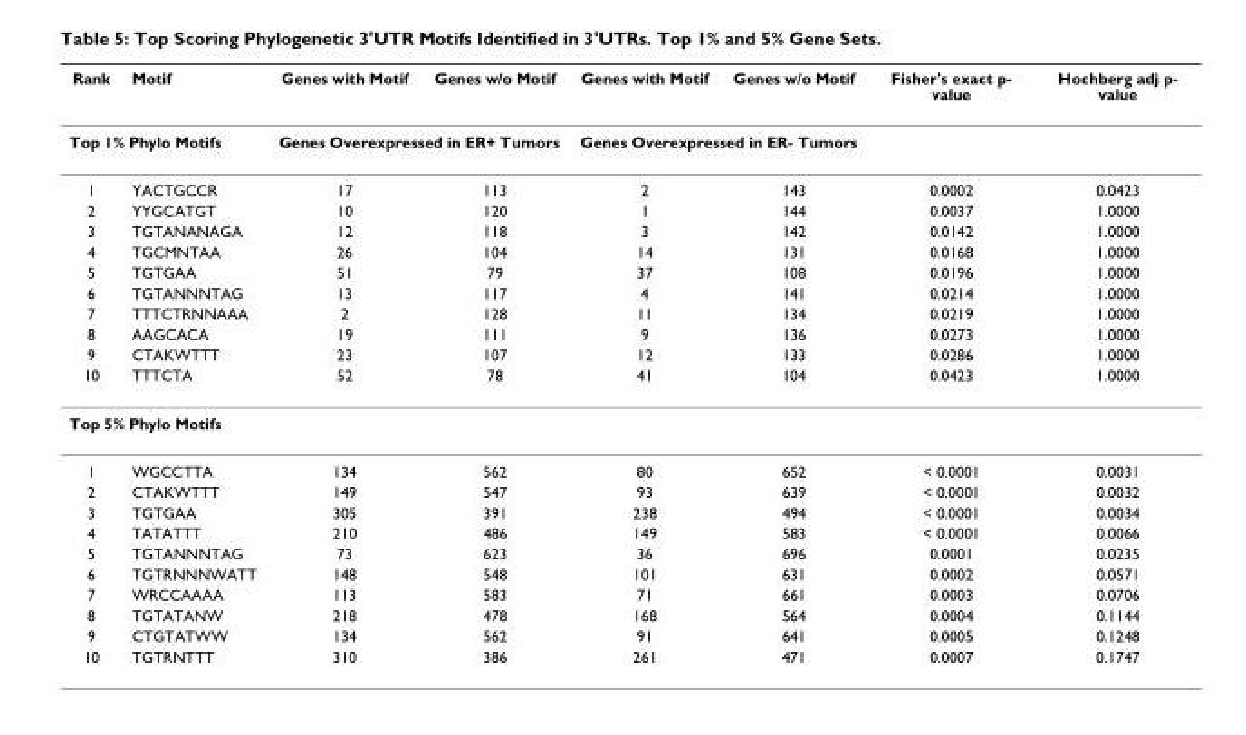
<table><thead><tr><td>Rank</td><td>Motif</td><td>Genes with Motif</td><td>Genes w/o Motif</td><td>Genes with Motif</td><td>Genes w/o Motif</td><td>Fisher&#x27;s exact p- value</td><td>Hochberg adj p- value</td></tr></thead><tbody><tr><td colspan="2">Top 1% Phylo Motifs</td><td colspan="2">Genes Overexpressed in ER+ Tumors</td><td colspan="2">Genes Overexpressed in ER- Tumors</td><td></td><td></td></tr><tr><td>1</td><td>YACTGCCR</td><td>17</td><td>113</td><td>2</td><td>143</td><td>0.0002</td><td>0.0423</td></tr><tr><td>2</td><td>YYGCATGT</td><td>10</td><td>120</td><td>1</td><td>144</td><td>0.0037</td><td>1.0000</td></tr><tr><td>3</td><td>TGTANANAGA</td><td>12</td><td>118</td><td>3</td><td>142</td><td>0.0142</td><td>1.0000</td></tr><tr><td>4</td><td>TGCMNTAA</td><td>26</td><td>104</td><td>14</td><td>131</td><td>0.0168</td><td>1.0000</td></tr><tr><td>5</td><td>TGTGAA</td><td>51</td><td>79</td><td>37</td><td>108</td><td>0.0196</td><td>1.0000</td></tr><tr><td>6</td><td>TGTANNNTAG</td><td>13</td><td>117</td><td>4</td><td>141</td><td>0.0214</td><td>1.0000</td></tr><tr><td>7</td><td>TTTCTRNNAAA</td><td>2</td><td>128</td><td>11</td><td>134</td><td>0.0219</td><td>1.0000</td></tr><tr><td>8</td><td>AAGCACA</td><td>19</td><td>111</td><td>9</td><td>136</td><td>0.0273</td><td>1.0000</td></tr><tr><td>9</td><td>CTAKWTTT</td><td>23</td><td>107</td><td>12</td><td>133</td><td>0.0286</td><td>1.0000</td></tr><tr><td>10</td><td>TTTCTA</td><td>52</td><td>78</td><td>41</td><td>104</td><td>0.0423</td><td>1.0000</td></tr><tr><td colspan="8">Top 5% Phylo Motifs</td></tr><tr><td>1</td><td>WGCCTTA</td><td>134</td><td>562</td><td>80</td><td>652</td><td>&lt; 0.0001</td><td>0.0031</td></tr><tr><td>2</td><td>CTAKWTTT</td><td>149</td><td>547</td><td>93</td><td>639</td><td>&lt; 0.0001</td><td>0.0032</td></tr><tr><td>3</td><td>TGTGAA</td><td>305</td><td>391</td><td>238</td><td>494</td><td>&lt; 0.0001</td><td>0.0034</td></tr><tr><td>4</td><td>TATATTT</td><td>210</td><td>486</td><td>149</td><td>583</td><td>&lt; 0.0001</td><td>0.0066</td></tr><tr><td>5</td><td>TGTANNNTAG</td><td>73</td><td>623</td><td>36</td><td>696</td><td>0.0001</td><td>0.0235</td></tr><tr><td>6</td><td>TGTRNNNWATT</td><td>148</td><td>548</td><td>101</td><td>631</td><td>0.0002</td><td>0.0571</td></tr><tr><td>7</td><td>WRCCAAAA</td><td>113</td><td>583</td><td>71</td><td>661</td><td>0.0003</td><td>0.0706</td></tr><tr><td>8</td><td>TGTATANW</td><td>218</td><td>478</td><td>168</td><td>564</td><td>0.0004</td><td>0.1144</td></tr><tr><td>9</td><td>CTGTATWW</td><td>134</td><td>562</td><td>91</td><td>641</td><td>0.0005</td><td>0.1248</td></tr><tr><td>10</td><td>TGTRNTTT</td><td>310</td><td>386</td><td>261</td><td>471</td><td>0.0007</td><td>0.1747</td></tr></tbody></table>